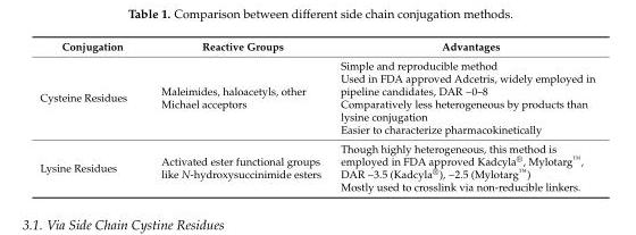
<table><thead><tr><td>Conjugation</td><td>Reactive Groups</td><td>Advantages</td></tr></thead><tbody><tr><td>Cysteine Residues</td><td>Maleimides, haloacetyls, other Michael acceptors</td><td>Simple and reproducible method Used in FDA approved Adcetris, widely employed in pipeline candidates, DAR ~0–8 Comparatively less heterogeneous by products than lysine conjugation Easier to characterize pharmacokinetically</td></tr><tr><td>Lysine Residues</td><td>Activated ester functional groups like N-hydroxysuccinimide esters</td><td>Though highly heterogeneous, this method is employed in FDA approved Kadcyla<sup>®</sup>, Mylotarg<sup>™</sup>, DAR ~3.5 (Kadcyla<sup>®</sup>), ~2.5 (Mylotarg<sup>™</sup>) Mostly used to crosslink via non-reducible linkers.</td></tr></tbody></table>